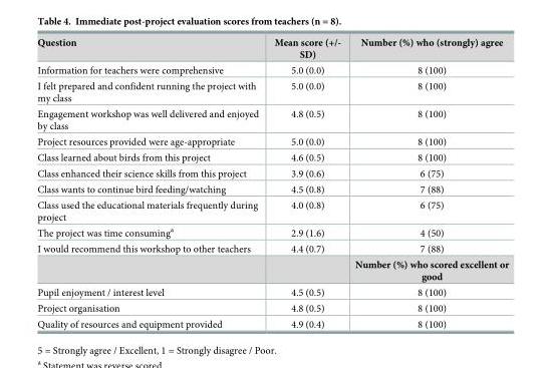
<table><thead><tr><td>Question</td><td>Mean score (+/- SD)</td><td>Number (%) who (strongly) agree</td></tr></thead><tbody><tr><td>Information for teachers were comprehensive</td><td>5.0 (0.0)</td><td>8 (100)</td></tr><tr><td>I felt prepared and confident running the project with my class</td><td>5.0 (0.0)</td><td>8 (100)</td></tr><tr><td>Engagement workshop was well delivered and enjoyed by class</td><td>4.8 (0.5)</td><td>8 (100)</td></tr><tr><td>Project resources provided were age-appropriate</td><td>5.0 (0.0)</td><td>8 (100)</td></tr><tr><td>Class learned about birds from this project</td><td>4.6 (0.5)</td><td>8 (100)</td></tr><tr><td>Class enhanced their science skills from this project</td><td>3.9 (0.6)</td><td>6 (75)</td></tr><tr><td>Class wants to continue bird feeding/watching</td><td>4.5 (0.8)</td><td>7 (88)</td></tr><tr><td>Class used the educational materials frequently during project</td><td>4.0 (0.8)</td><td>6 (75)</td></tr><tr><td>The project was time consuming<sup>a</sup></td><td>2.9 (1.6)</td><td>4 (50)</td></tr><tr><td rowspan="2">I would recommend this workshop to other teachers</td><td>4.4 (0.7)</td><td>7 (88)</td></tr><tr><td></td><td>Number (%) who scored excellent or good</td></tr><tr><td>Pupil enjoyment / interest level</td><td>4.5 (0.5)</td><td>8 (100)</td></tr><tr><td>Project organisation</td><td>4.8 (0.5)</td><td>8 (100)</td></tr><tr><td>Quality of resources and equipment provided</td><td>4.9 (0.4)</td><td>8 (100)</td></tr></tbody></table>